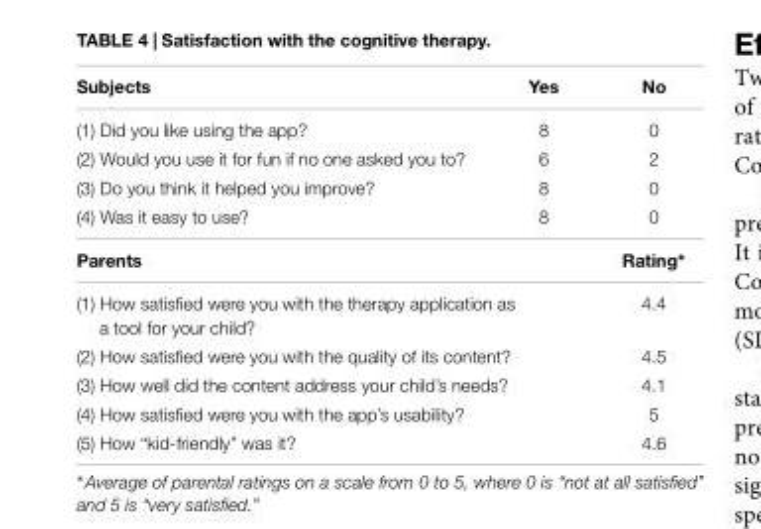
<table><thead><tr><td>Subjects</td><td>Yes</td><td>No</td></tr></thead><tbody><tr><td>(1) Did you like using the app?</td><td>8</td><td>0</td></tr><tr><td>(2) Would you use it for fun if no one asked you to?</td><td>6</td><td>2</td></tr><tr><td>(3) Do you think it helped you improve?</td><td>8</td><td>0</td></tr><tr><td>(4) Was it easy to use?</td><td>8</td><td>0</td></tr><tr><td colspan="2">Parents</td><td>Rating∗</td></tr><tr><td colspan="2">(1) How satisfied were you with the therapy application as a tool for your child?</td><td>4.4</td></tr><tr><td colspan="2">(2) How satisfied were you with the quality of its content?</td><td>4.5</td></tr><tr><td colspan="2">(3) How well did the content address your child’s needs?</td><td>4.1</td></tr><tr><td colspan="2">(4) How satisfied were you with the app’s usability?</td><td>5</td></tr><tr><td colspan="2">(5) How “kid-friendly” was it?</td><td>4.6</td></tr></tbody></table>